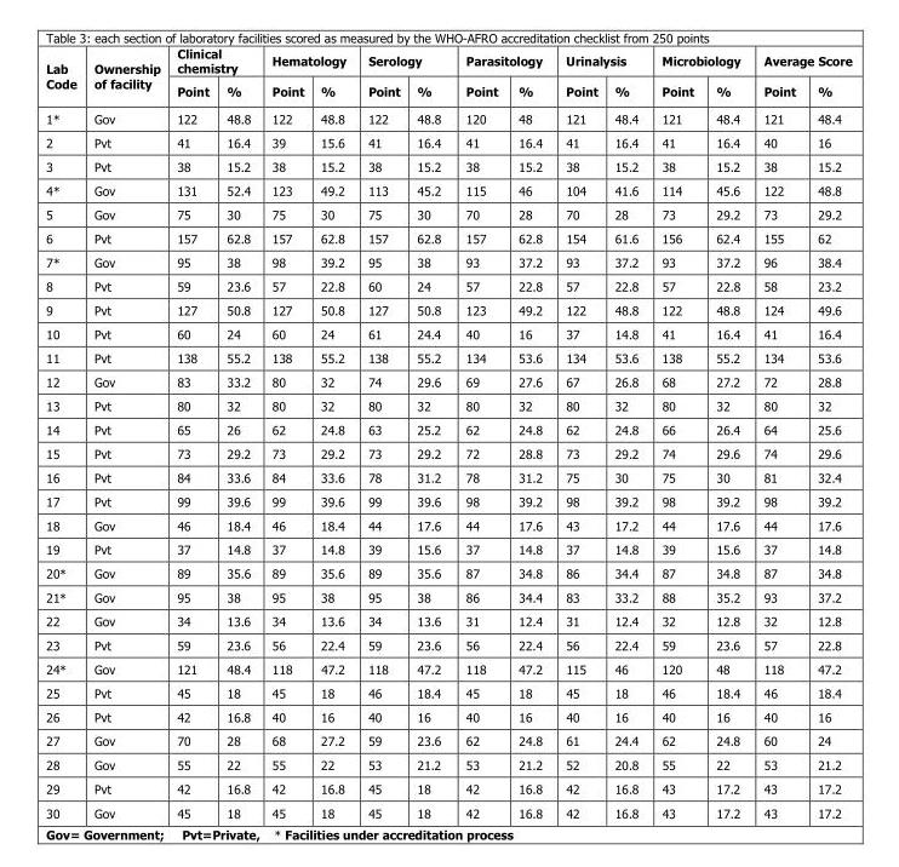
<table><thead><tr><td rowspan="2">Lab Code</td><td rowspan="2">Ownership of facility</td><td colspan="2">Clinical chemistry</td><td colspan="2">Hematology</td><td colspan="2">Serology</td><td colspan="2">Parasitology</td><td colspan="2">Urinalysis</td><td colspan="2">Microbiology</td><td colspan="2">Average Score</td></tr><tr><td>Point</td><td>%</td><td>Point</td><td>%</td><td>Point</td><td>%</td><td>Point</td><td>%</td><td>Point</td><td>%</td><td>Point</td><td>%</td><td>Point</td><td>%</td></tr></thead><tbody><tr><td>1*</td><td>Gov</td><td>122</td><td>48.8</td><td>122</td><td>48.8</td><td>122</td><td>48.8</td><td>120</td><td>48</td><td>121</td><td>48.4</td><td>121</td><td>48.4</td><td>121</td><td>48.4</td></tr><tr><td>2</td><td>Pvt</td><td>41</td><td>16.4</td><td>39</td><td>15.6</td><td>41</td><td>16.4</td><td>41</td><td>16.4</td><td>41</td><td>16.4</td><td>41</td><td>16.4</td><td>40</td><td>16</td></tr><tr><td>3</td><td>Pvt</td><td>38</td><td>15.2</td><td>38</td><td>15.2</td><td>38</td><td>15.2</td><td>38</td><td>15.2</td><td>38</td><td>15.2</td><td>38</td><td>15.2</td><td>38</td><td>15.2</td></tr><tr><td>4*</td><td>Gov</td><td>131</td><td>52.4</td><td>123</td><td>49.2</td><td>113</td><td>45.2</td><td>115</td><td>46</td><td>104</td><td>41.6</td><td>114</td><td>45.6</td><td>122</td><td>48.8</td></tr><tr><td>5</td><td>Gov</td><td>75</td><td>30</td><td>75</td><td>30</td><td>75</td><td>30</td><td>70</td><td>28</td><td>70</td><td>28</td><td>73</td><td>29.2</td><td>73</td><td>29.2</td></tr><tr><td>6</td><td>Pvt</td><td>157</td><td>62.8</td><td>157</td><td>62.8</td><td>157</td><td>62.8</td><td>157</td><td>62.8</td><td>154</td><td>61.6</td><td>156</td><td>62.4</td><td>155</td><td>62</td></tr><tr><td>7*</td><td>Gov</td><td>95</td><td>38</td><td>98</td><td>39.2</td><td>95</td><td>38</td><td>93</td><td>37.2</td><td>93</td><td>37.2</td><td>93</td><td>37.2</td><td>96</td><td>38.4</td></tr><tr><td>8</td><td>Pvt</td><td>59</td><td>23.6</td><td>57</td><td>22.8</td><td>60</td><td>24</td><td>57</td><td>22.8</td><td>57</td><td>22.8</td><td>57</td><td>22.8</td><td>58</td><td>23.2</td></tr><tr><td>9</td><td>Pvt</td><td>127</td><td>50.8</td><td>127</td><td>50.8</td><td>127</td><td>50.8</td><td>123</td><td>49.2</td><td>122</td><td>48.8</td><td>122</td><td>48.8</td><td>124</td><td>49.6</td></tr><tr><td>10</td><td>Pvt</td><td>60</td><td>24</td><td>60</td><td>24</td><td>61</td><td>24.4</td><td>40</td><td>16</td><td>37</td><td>14.8</td><td>41</td><td>16.4</td><td>41</td><td>16.4</td></tr><tr><td>11</td><td>Pvt</td><td>138</td><td>55.2</td><td>138</td><td>55.2</td><td>138</td><td>55.2</td><td>134</td><td>53.6</td><td>134</td><td>53.6</td><td>138</td><td>55.2</td><td>134</td><td>53.6</td></tr><tr><td>12</td><td>Gov</td><td>83</td><td>33.2</td><td>80</td><td>32</td><td>74</td><td>29.6</td><td>69</td><td>27.6</td><td>67</td><td>26.8</td><td>68</td><td>27.2</td><td>72</td><td>28.8</td></tr><tr><td>13</td><td>Pvt</td><td>80</td><td>32</td><td>80</td><td>32</td><td>80</td><td>32</td><td>80</td><td>32</td><td>80</td><td>32</td><td>80</td><td>32</td><td>80</td><td>32</td></tr><tr><td>14</td><td>Pvt</td><td>65</td><td>26</td><td>62</td><td>24.8</td><td>63</td><td>25.2</td><td>62</td><td>24.8</td><td>62</td><td>24.8</td><td>66</td><td>26.4</td><td>64</td><td>25.6</td></tr><tr><td>15</td><td>Pvt</td><td>73</td><td>29.2</td><td>73</td><td>29.2</td><td>73</td><td>29.2</td><td>72</td><td>28.8</td><td>73</td><td>29.2</td><td>74</td><td>29.6</td><td>74</td><td>29.6</td></tr><tr><td>16</td><td>Pvt</td><td>84</td><td>33.6</td><td>84</td><td>33.6</td><td>78</td><td>31.2</td><td>78</td><td>31.2</td><td>75</td><td>30</td><td>75</td><td>30</td><td>81</td><td>32.4</td></tr><tr><td>17</td><td>Pvt</td><td>99</td><td>39.6</td><td>99</td><td>39.6</td><td>99</td><td>39.6</td><td>98</td><td>39.2</td><td>98</td><td>39.2</td><td>98</td><td>39.2</td><td>98</td><td>39.2</td></tr><tr><td>18</td><td>Gov</td><td>46</td><td>18.4</td><td>46</td><td>18.4</td><td>44</td><td>17.6</td><td>44</td><td>17.6</td><td>43</td><td>17.2</td><td>44</td><td>17.6</td><td>44</td><td>17.6</td></tr><tr><td>19</td><td>Pvt</td><td>37</td><td>14.8</td><td>37</td><td>14.8</td><td>39</td><td>15.6</td><td>37</td><td>14.8</td><td>37</td><td>14.8</td><td>39</td><td>15.6</td><td>37</td><td>14.8</td></tr><tr><td>20*</td><td>Gov</td><td>89</td><td>35.6</td><td>89</td><td>35.6</td><td>89</td><td>35.6</td><td>87</td><td>34.8</td><td>86</td><td>34.4</td><td>87</td><td>34.8</td><td>87</td><td>34.8</td></tr><tr><td>21*</td><td>Gov</td><td>95</td><td>38</td><td>95</td><td>38</td><td>95</td><td>38</td><td>86</td><td>34.4</td><td>83</td><td>33.2</td><td>88</td><td>35.2</td><td>93</td><td>37.2</td></tr><tr><td>22</td><td>Gov</td><td>34</td><td>13.6</td><td>34</td><td>13.6</td><td>34</td><td>13.6</td><td>31</td><td>12.4</td><td>31</td><td>12.4</td><td>32</td><td>12.8</td><td>32</td><td>12.8</td></tr><tr><td>23</td><td>Pvt</td><td>59</td><td>23.6</td><td>56</td><td>22.4</td><td>59</td><td>23.6</td><td>56</td><td>22.4</td><td>56</td><td>22.4</td><td>59</td><td>23.6</td><td>57</td><td>22.8</td></tr><tr><td>24*</td><td>Gov</td><td>121</td><td>48.4</td><td>118</td><td>47.2</td><td>118</td><td>47.2</td><td>118</td><td>47.2</td><td>115</td><td>46</td><td>120</td><td>48</td><td>118</td><td>47.2</td></tr><tr><td>25</td><td>Pvt</td><td>45</td><td>18</td><td>45</td><td>18</td><td>46</td><td>18.4</td><td>45</td><td>18</td><td>45</td><td>18</td><td>46</td><td>18.4</td><td>46</td><td>18.4</td></tr><tr><td>26</td><td>Pvt</td><td>42</td><td>16.8</td><td>40</td><td>16</td><td>40</td><td>16</td><td>40</td><td>16</td><td>40</td><td>16</td><td>40</td><td>16</td><td>40</td><td>16</td></tr><tr><td>27</td><td>Gov</td><td>70</td><td>28</td><td>68</td><td>27.2</td><td>59</td><td>23.6</td><td>62</td><td>24.8</td><td>61</td><td>24.4</td><td>62</td><td>24.8</td><td>60</td><td>24</td></tr><tr><td>28</td><td>Gov</td><td>55</td><td>22</td><td>55</td><td>22</td><td>53</td><td>21.2</td><td>53</td><td>21.2</td><td>52</td><td>20.8</td><td>55</td><td>22</td><td>53</td><td>21.2</td></tr><tr><td>29</td><td>Pvt</td><td>42</td><td>16.8</td><td>42</td><td>16.8</td><td>45</td><td>18</td><td>42</td><td>16.8</td><td>42</td><td>16.8</td><td>43</td><td>17.2</td><td>43</td><td>17.2</td></tr><tr><td>30</td><td>Gov</td><td>45</td><td>18</td><td>45</td><td>18</td><td>45</td><td>18</td><td>42</td><td>16.8</td><td>42</td><td>16.8</td><td>43</td><td>17.2</td><td>43</td><td>17.2</td></tr></tbody></table>